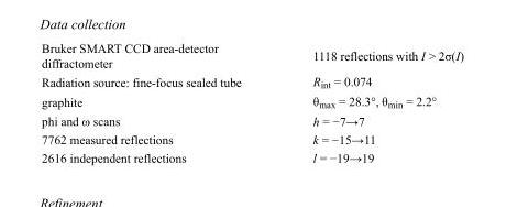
<table><tbody><tr><td>Bruker SMART CCD area-detector diffractometer</td><td>1118 reflections with I &gt; 2σ(I)</td></tr><tr><td>Radiation source: fine-focus sealed tube</td><td>R<sub>int</sub> = 0.074</td></tr><tr><td>graphite</td><td>θ<sub>max</sub> = 28.3°, θ<sub>min</sub> = 2.2°</td></tr><tr><td>phi and ω scans</td><td>h = −7→7</td></tr><tr><td>7762 measured reflections</td><td>k = −15→11</td></tr><tr><td>2616 independent reflections</td><td>l = −19→19</td></tr></tbody></table>